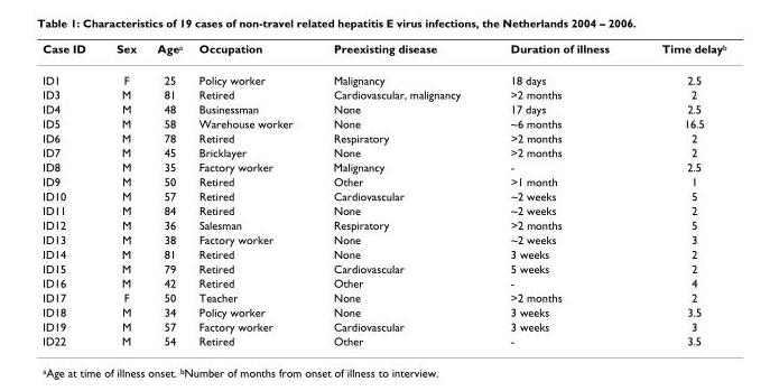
<table><thead><tr><td>Case ID</td><td>Sex</td><td>Age<sup>a</sup></td><td>Occupation</td><td>Preexisting disease</td><td>Duration of illness</td><td>Time delay<sup>b</sup></td></tr></thead><tbody><tr><td>ID1</td><td>F</td><td>25</td><td>Policy worker</td><td>Malignancy</td><td>18 days</td><td>2.5</td></tr><tr><td>ID3</td><td>M</td><td>81</td><td>Retired</td><td>Cardiovascular, malignancy</td><td>&gt;2 months</td><td>2</td></tr><tr><td>ID4</td><td>M</td><td>48</td><td>Businessman</td><td>None</td><td>17 days</td><td>2.5</td></tr><tr><td>ID5</td><td>M</td><td>58</td><td>Warehouse worker</td><td>None</td><td>~6 months</td><td>16.5</td></tr><tr><td>ID6</td><td>M</td><td>78</td><td>Retired</td><td>Respiratory</td><td>&gt;2 months</td><td>2</td></tr><tr><td>ID7</td><td>M</td><td>45</td><td>Bricklayer</td><td>None</td><td>&gt;2 months</td><td>2</td></tr><tr><td>ID8</td><td>M</td><td>35</td><td>Factory worker</td><td>Malignancy</td><td>-</td><td>2.5</td></tr><tr><td>ID9</td><td>M</td><td>50</td><td>Retired</td><td>Other</td><td>&gt;1 month</td><td>1</td></tr><tr><td>ID10</td><td>M</td><td>57</td><td>Retired</td><td>Cardiovascular</td><td>~2 weeks</td><td>5</td></tr><tr><td>ID11</td><td>M</td><td>84</td><td>Retired</td><td>None</td><td>~2 weeks</td><td>2</td></tr><tr><td>ID12</td><td>M</td><td>36</td><td>Salesman</td><td>Respiratory</td><td>&gt;2 months</td><td>5</td></tr><tr><td>ID13</td><td>M</td><td>38</td><td>Factory worker</td><td>None</td><td>~2 weeks</td><td>3</td></tr><tr><td>ID14</td><td>M</td><td>81</td><td>Retired</td><td>None</td><td>3 weeks</td><td>2</td></tr><tr><td>ID15</td><td>M</td><td>79</td><td>Retired</td><td>Cardiovascular</td><td>5 weeks</td><td>2</td></tr><tr><td>ID16</td><td>M</td><td>42</td><td>Retired</td><td>Other</td><td>-</td><td>4</td></tr><tr><td>ID17</td><td>F</td><td>50</td><td>Teacher</td><td>None</td><td>&gt;2 months</td><td>2</td></tr><tr><td>ID18</td><td>M</td><td>34</td><td>Policy worker</td><td>None</td><td>3 weeks</td><td>3.5</td></tr><tr><td>ID19</td><td>M</td><td>57</td><td>Factory worker</td><td>Cardiovascular</td><td>3 weeks</td><td>3</td></tr><tr><td>ID22</td><td>M</td><td>54</td><td>Retired</td><td>Other</td><td>-</td><td>3.5</td></tr></tbody></table>